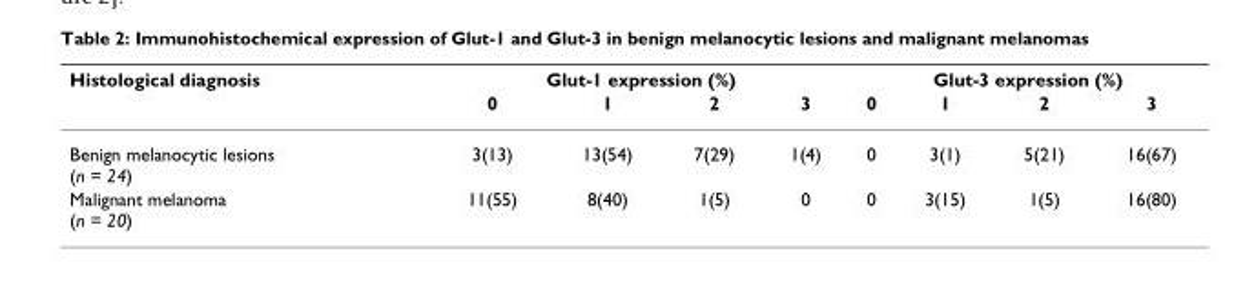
<table><thead><tr><td rowspan="2">Histological diagnosis</td><td colspan="4">Glut-1 expression (%)</td><td colspan="4">Glut-3 expression (%)</td></tr><tr><td>0</td><td>1</td><td>2</td><td>3</td><td>0</td><td>1</td><td>2</td><td>3</td></tr></thead><tbody><tr><td>Benign melanocytic lesions (n = 24)</td><td>3(13)</td><td>13(54)</td><td>7(29)</td><td>1(4)</td><td>0</td><td>3(1)</td><td>5(21)</td><td>16(67)</td></tr><tr><td>Malignant melanoma (n = 20)</td><td>11(55)</td><td>8(40)</td><td>1(5)</td><td>0</td><td>0</td><td>3(15)</td><td>1(5)</td><td>16(80)</td></tr></tbody></table>